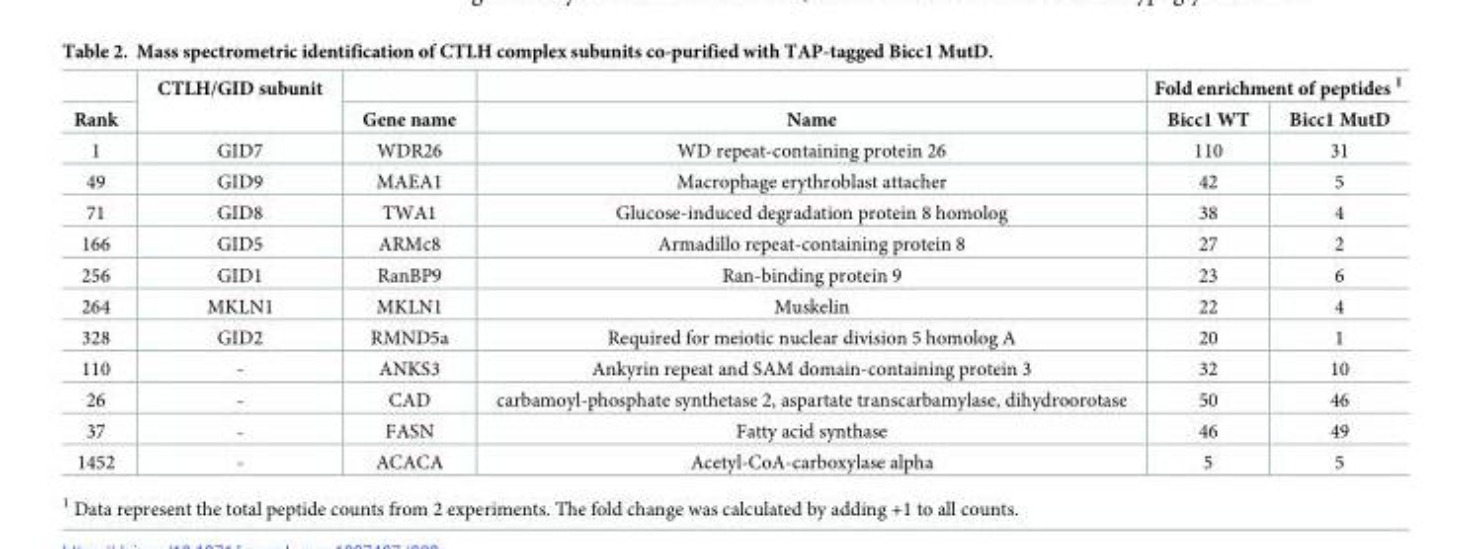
<table><thead><tr><td rowspan="2">Rank</td><td rowspan="2">CTLH/GID subunit</td><td rowspan="2">Gene name</td><td rowspan="2">Name</td><td colspan="2">Fold enrichment of peptides <sup>1</sup></td></tr><tr><td>Bicc1 WT</td><td>Bicc1 MutD</td></tr></thead><tbody><tr><td>1</td><td>GID7</td><td>WDR26</td><td>WD repeat-containing protein 26</td><td>110</td><td>31</td></tr><tr><td>49</td><td>GID9</td><td>MAEA1</td><td>Macrophage erythroblast attacher</td><td>42</td><td>5</td></tr><tr><td>71</td><td>GID8</td><td>TWA1</td><td>Glucose-induced degradation protein 8 homolog</td><td>38</td><td>4</td></tr><tr><td>166</td><td>GID5</td><td>ARMc8</td><td>Armadillo repeat-containing protein 8</td><td>27</td><td>2</td></tr><tr><td>256</td><td>GID1</td><td>RanBP9</td><td>Ran-binding protein 9</td><td>23</td><td>6</td></tr><tr><td>264</td><td>MKLN1</td><td>MKLN1</td><td>Muskelin</td><td>22</td><td>4</td></tr><tr><td>328</td><td>GID2</td><td>RMND5a</td><td>Required for meiotic nuclear division 5 homolog A</td><td>20</td><td>1</td></tr><tr><td>110</td><td>-</td><td>ANKS3</td><td>Ankyrin repeat and SAM domain-containing protein 3</td><td>32</td><td>10</td></tr><tr><td>26</td><td>-</td><td>CAD</td><td>carbamoyl-phosphate synthetase 2, aspartate transcarbamylase, dihydroorotase</td><td>50</td><td>46</td></tr><tr><td>37</td><td>-</td><td>FASN</td><td>Fatty acid synthase</td><td>46</td><td>49</td></tr><tr><td>1452</td><td>-</td><td>ACACA</td><td>Acetyl-CoA-carboxylase alpha</td><td>5</td><td>5</td></tr></tbody></table>